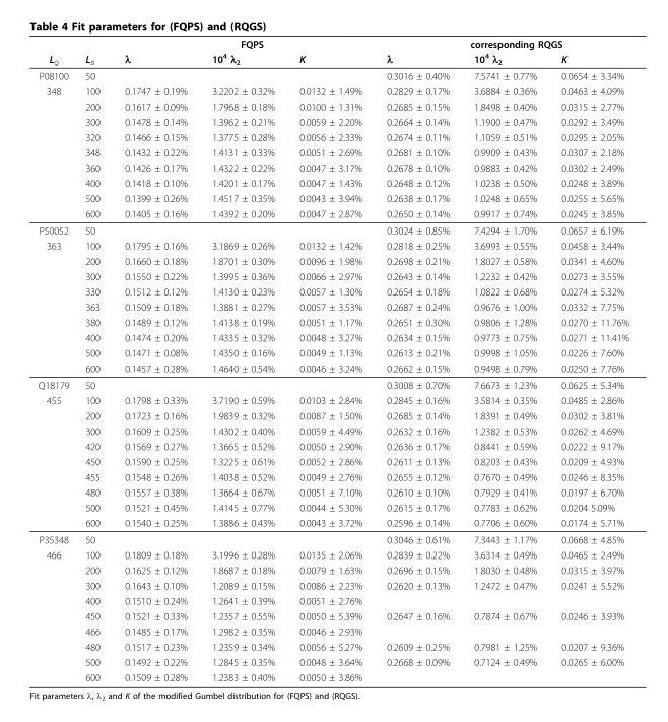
<table><thead><tr><td rowspan="2">L<sub>Q</sub></td><td rowspan="2">L<sub>S</sub></td><td colspan="3">FQPS</td><td colspan="3">corresponding RQGS</td></tr><tr><td>λ</td><td>10<sup>4</sup> λ<sub>2</sub></td><td>K</td><td>λ</td><td>10<sup>4</sup> λ<sub>2</sub></td><td>K</td></tr></thead><tbody><tr><td>P08100</td><td>50</td><td></td><td></td><td></td><td>0.3016 ± 0.40%</td><td>7.5741 ± 0.77%</td><td>0.0654 ± 3.34%</td></tr><tr><td rowspan="9">348</td><td>100</td><td>0.1747 ± 0.19%</td><td>3.2202 ± 0.32%</td><td>0.0132 ± 1.49%</td><td>0.2829 ± 0.17%</td><td>3.6884 ± 0.36%</td><td>0.0463 ± 4.09%</td></tr><tr><td>200</td><td>0.1617 ± 0.09%</td><td>1.7968 ± 0.18%</td><td>0.0100 ± 1.31%</td><td>0.2685 ± 0.15%</td><td>1.8498 ± 0.40%</td><td>0.0315 ± 2.77%</td></tr><tr><td>300</td><td>0.1478 ± 0.14%</td><td>1.3962 ± 0.21%</td><td>0.0059 ± 2.20%</td><td>0.2664 ± 0.14%</td><td>1.1900 ± 0.47%</td><td>0.0292 ± 3.49%</td></tr><tr><td>320</td><td>0.1466 ± 0.15%</td><td>1.3775 ± 0.28%</td><td>0.0056 ± 2.33%</td><td>0.2674 ± 0.11%</td><td>1.1059 ± 0.51%</td><td>0.0295 ± 2.05%</td></tr><tr><td>348</td><td>0.1432 ± 0.22%</td><td>1.4131 ± 0.33%</td><td>0.0051 ± 2.69%</td><td>0.2681 ± 0.10%</td><td>0.9909 ± 0.43%</td><td>0.0307 ± 2.18%</td></tr><tr><td>360</td><td>0.1426 ± 0.17%</td><td>1.4322 ± 0.22%</td><td>0.0047 ± 3.17%</td><td>0.2678 ± 0.10%</td><td>0.9883 ± 0.42%</td><td>0.0302 ± 2.49%</td></tr><tr><td>400</td><td>0.1418 ± 0.10%</td><td>1.4201 ± 0.17%</td><td>0.0047 ± 1.43%</td><td>0.2648 ± 0.12%</td><td>1.0238 ± 0.50%</td><td>0.0248 ± 3.89%</td></tr><tr><td>500</td><td>0.1399 ± 0.26%</td><td>1.4517 ± 0.35%</td><td>0.0043 ± 3.94%</td><td>0.2638 ± 0.17%</td><td>1.0248 ± 0.65%</td><td>0.0255 ± 5.65%</td></tr><tr><td>600</td><td>0.1405 ± 0.16%</td><td>1.4392 ± 0.20%</td><td>0.0047 ± 2.87%</td><td>0.2650 ± 0.14%</td><td>0.9917 ± 0.74%</td><td>0.0245 ± 3.85%</td></tr><tr><td>P50052</td><td>50</td><td></td><td></td><td></td><td>0.3024 ± 0.85%</td><td>7.4294 ± 1.70%</td><td>0.0657 ± 6.19%</td></tr><tr><td rowspan="9">363</td><td>100</td><td>0.1795 ± 0.16%</td><td>3.1869 ± 0.26%</td><td>0.0132 ± 1.42%</td><td>0.2818 ± 0.25%</td><td>3.6993 ± 0.55%</td><td>0.0458 ± 3.44%</td></tr><tr><td>200</td><td>0.1660 ± 0.18%</td><td>1.8701 ± 0.30%</td><td>0.0096 ± 1.98%</td><td>0.2698 ± 0.21%</td><td>1.8027 ± 0.58%</td><td>0.0341 ± 4.60%</td></tr><tr><td>300</td><td>0.1550 ± 0.22%</td><td>1.3995 ± 0.36%</td><td>0.0066 ± 2.97%</td><td>0.2643 ± 0.14%</td><td>1.2232 ± 0.42%</td><td>0.0273 ± 3.55%</td></tr><tr><td>330</td><td>0.1512 ± 0.12%</td><td>1.4130 ± 0.23%</td><td>0.0057 ± 1.30%</td><td>0.2654 ± 0.18%</td><td>1.0822 ± 0.68%</td><td>0.0274 ± 5.32%</td></tr><tr><td>363</td><td>0.1509 ± 0.18%</td><td>1.3881 ± 0.27%</td><td>0.0057 ± 3.53%</td><td>0.2687 ± 0.24%</td><td>0.9676 ± 1.00%</td><td>0.0332 ± 7.75%</td></tr><tr><td>380</td><td>0.1489 ± 0.12%</td><td>1.4138 ± 0.19%</td><td>0.0051 ± 1.17%</td><td>0.2651 ± 0.30%</td><td>0.9806 ± 1.28%</td><td>0.0270 ± 11.76%</td></tr><tr><td>400</td><td>0.1474 ± 0.20%</td><td>1.4335 ± 0.32%</td><td>0.0048 ± 3.27%</td><td>0.2634 ± 0.15%</td><td>0.9773 ± 0.75%</td><td>0.0271 ± 11.41%</td></tr><tr><td>500</td><td>0.1471 ± 0.08%</td><td>1.4350 ± 0.16%</td><td>0.0049 ± 1.13%</td><td>0.2613 ± 0.21%</td><td>0.9998 ± 1.05%</td><td>0.0226 ± 7.60%</td></tr><tr><td>600</td><td>0.1457 ± 0.28%</td><td>1.4640 ± 0.54%</td><td>0.0046 ± 3.24%</td><td>0.2662 ± 0.15%</td><td>0.9498 ± 0.79%</td><td>0.0250 ± 7.76%</td></tr><tr><td>Q18179</td><td>50</td><td></td><td></td><td></td><td>0.3008 ± 0.70%</td><td>7.6673 ± 1.23%</td><td>0.0625 ± 5.34%</td></tr><tr><td rowspan="9">455</td><td>100</td><td>0.1798 ± 0.33%</td><td>3.7190 ± 0.59%</td><td>0.0103 ± 2.84%</td><td>0.2845 ± 0.16%</td><td>3.5814 ± 0.35%</td><td>0.0485 ± 2.86%</td></tr><tr><td>200</td><td>0.1723 ± 0.16%</td><td>1.9839 ± 0.32%</td><td>0.0087 ± 1.50%</td><td>0.2685 ± 0.14%</td><td>1.8391 ± 0.49%</td><td>0.0302 ± 3.81%</td></tr><tr><td>300</td><td>0.1609 ± 0.25%</td><td>1.4302 ± 0.40%</td><td>0.0059 ± 4.49%</td><td>0.2632 ± 0.16%</td><td>1.2382 ± 0.53%</td><td>0.0262 ± 4.69%</td></tr><tr><td>420</td><td>0.1569 ± 0.27%</td><td>1.3665 ± 0.52%</td><td>0.0050 ± 2.90%</td><td>0.2636 ± 0.17%</td><td>0.8441 ± 0.59%</td><td>0.0222 ± 9.17%</td></tr><tr><td>450</td><td>0.1590 ± 0.25%</td><td>1.3225 ± 0.61%</td><td>0.0052 ± 2.86%</td><td>0.2611 ± 0.13%</td><td>0.8203 ± 0.43%</td><td>0.0209 ± 4.93%</td></tr><tr><td>455</td><td>0.1548 ± 0.26%</td><td>1.4038 ± 0.52%</td><td>0.0049 ± 2.76%</td><td>0.2655 ± 0.12%</td><td>0.7670 ± 0.49%</td><td>0.0246 ± 8.35%</td></tr><tr><td>480</td><td>0.1557 ± 0.38%</td><td>1.3664 ± 0.67%</td><td>0.0051 ± 7.10%</td><td>0.2610 ± 0.10%</td><td>0.7929 ± 0.41%</td><td>0.0197 ± 6.70%</td></tr><tr><td>500</td><td>0.1521 ± 0.45%</td><td>1.4145 ± 0.77%</td><td>0.0044 ± 5.30%</td><td>0.2615 ± 0.17%</td><td>0.7783 ± 0.62%</td><td>0.0204 5.09%</td></tr><tr><td>600</td><td>0.1540 ± 0.25%</td><td>1.3886 ± 0.43%</td><td>0.0043 ± 3.72%</td><td>0.2596 ± 0.14%</td><td>0.7706 ± 0.60%</td><td>0.0174 ± 5.71%</td></tr><tr><td>P35348</td><td>50</td><td></td><td></td><td></td><td>0.3046 ± 0.61%</td><td>7.3443 ± 1.17%</td><td>0.0668 ± 4.85%</td></tr><tr><td rowspan="9">466</td><td>100</td><td>0.1809 ± 0.18%</td><td>3.1996 ± 0.28%</td><td>0.0135 ± 2.06%</td><td>0.2839 ± 0.22%</td><td>3.6314 ± 0.49%</td><td>0.0465 ± 2.49%</td></tr><tr><td>200</td><td>0.1625 ± 0.12%</td><td>1.8687 ± 0.18%</td><td>0.0079 ± 1.63%</td><td>0.2696 ± 0.15%</td><td>1.8030 ± 0.48%</td><td>0.0315 ± 3.97%</td></tr><tr><td>300</td><td>0.1643 ± 0.10%</td><td>1.2089 ± 0.15%</td><td>0.0086 ± 2.23%</td><td>0.2620 ± 0.13%</td><td>1.2472 ± 0.47%</td><td>0.0241 ± 5.52%</td></tr><tr><td>400</td><td>0.1510 ± 0.24%</td><td>1.2641 ± 0.39%</td><td>0.0051 ± 2.76%</td><td></td><td></td><td></td></tr><tr><td>450</td><td>0.1521 ± 0.33%</td><td>1.2357 ± 0.55%</td><td>0.0050 ± 5.39%</td><td>0.2647 ± 0.16%</td><td>0.7874 ± 0.67%</td><td>0.0246 ± 3.93%</td></tr><tr><td>466</td><td>0.1485 ± 0.17%</td><td>1.2982 ± 0.35%</td><td>0.0046 ± 2.93%</td><td></td><td></td><td></td></tr><tr><td>480</td><td>0.1517 ± 0.23%</td><td>1.2359 ± 0.34%</td><td>0.0056 ± 5.27%</td><td>0.2609 ± 0.25%</td><td>0.7981 ± 1.25%</td><td>0.0207 ± 9.36%</td></tr><tr><td>500</td><td>0.1492 ± 0.22%</td><td>1.2845 ± 0.35%</td><td>0.0048 ± 3.64%</td><td>0.2668 ± 0.09%</td><td>0.7124 ± 0.49%</td><td>0.0265 ± 6.00%</td></tr><tr><td>600</td><td>0.1509 ± 0.28%</td><td>1.2383 ± 0.40%</td><td>0.0050 ± 3.86%</td><td></td><td></td><td></td></tr></tbody></table>